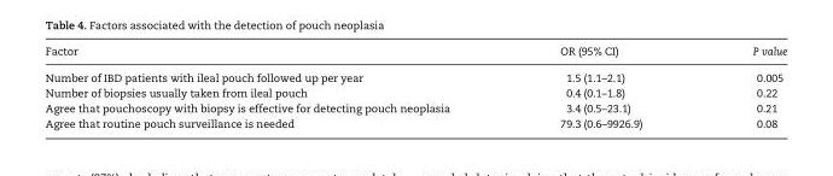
<table><thead><tr><td>Factor</td><td>OR (95% CI)</td><td>P value</td></tr></thead><tbody><tr><td>Number of IBD patients with ileal pouch followed up per year</td><td>1.5 (1.1–2.1)</td><td>0.005</td></tr><tr><td>Number of biopsies usually taken from ileal pouch</td><td>0.4 (0.1–1.8)</td><td>0.22</td></tr><tr><td>Agree that pouchoscopy with biopsy is effective for detecting pouch neoplasia</td><td>3.4 (0.5–23.1)</td><td>0.21</td></tr><tr><td>Agree that routine pouch surveillance is needed</td><td>79.3 (0.6–9926.9)</td><td>0.08</td></tr></tbody></table>